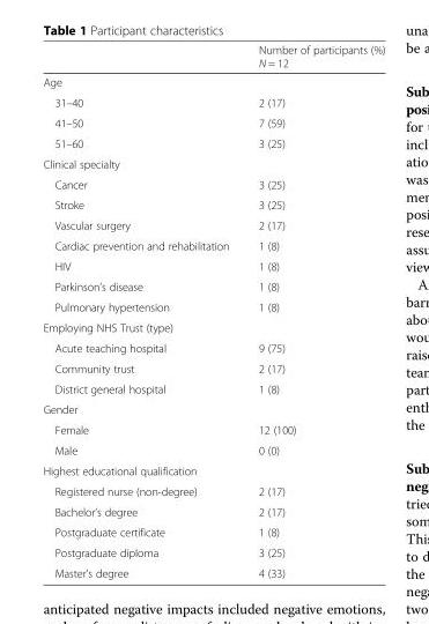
<table><thead><tr><td></td><td>Number of participants (%) N = 12</td></tr></thead><tbody><tr><td colspan="2">Age</td></tr><tr><td>31–40</td><td>2 (17)</td></tr><tr><td>41–50</td><td>7 (59)</td></tr><tr><td>51–60</td><td>3 (25)</td></tr><tr><td colspan="2">Clinical specialty</td></tr><tr><td>Cancer</td><td>3 (25)</td></tr><tr><td>Stroke</td><td>3 (25)</td></tr><tr><td>Vascular surgery</td><td>2 (17)</td></tr><tr><td>Cardiac prevention and rehabilitation</td><td>1 (8)</td></tr><tr><td>HIV</td><td>1 (8)</td></tr><tr><td>Parkinson’s disease</td><td>1 (8)</td></tr><tr><td>Pulmonary hypertension</td><td>1 (8)</td></tr><tr><td colspan="2">Employing NHS Trust (type)</td></tr><tr><td>Acute teaching hospital</td><td>9 (75)</td></tr><tr><td>Community trust</td><td>2 (17)</td></tr><tr><td>District general hospital</td><td>1 (8)</td></tr><tr><td colspan="2">Gender</td></tr><tr><td>Female</td><td>12 (100)</td></tr><tr><td>Male</td><td>0 (0)</td></tr><tr><td colspan="2">Highest educational qualification</td></tr><tr><td>Registered nurse (non-degree)</td><td>2 (17)</td></tr><tr><td>Bachelor’s degree</td><td>2 (17)</td></tr><tr><td>Postgraduate certificate</td><td>1 (8)</td></tr><tr><td>Postgraduate diploma</td><td>3 (25)</td></tr><tr><td>Master’s degree</td><td>4 (33)</td></tr></tbody></table>